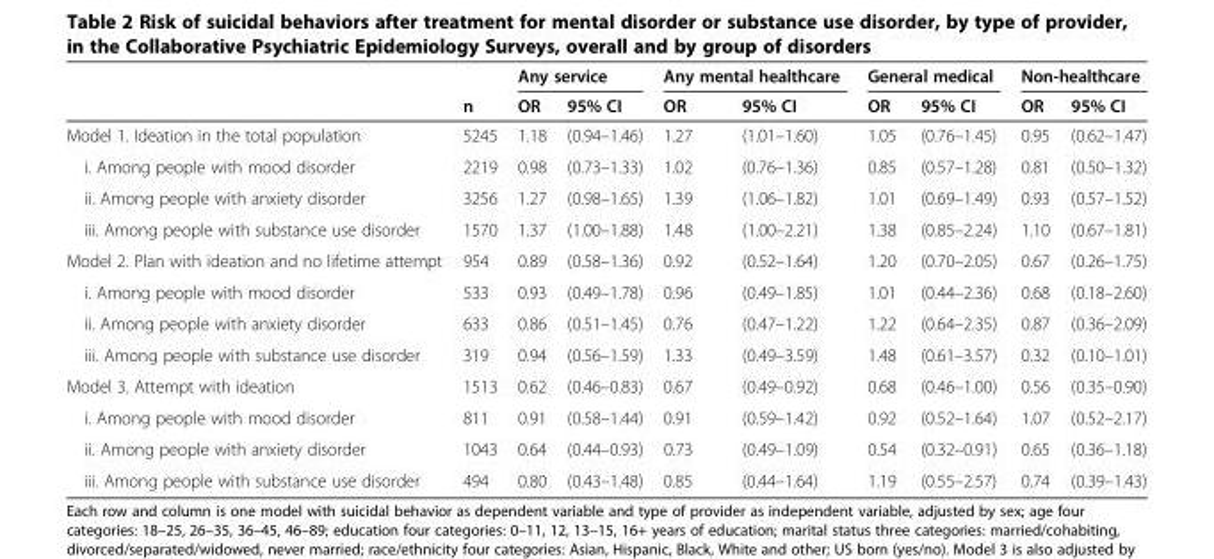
<table><thead><tr><td rowspan="2"></td><td rowspan="2">n</td><td colspan="2">Any service</td><td colspan="2">Any mental healthcare</td><td colspan="2">General medical</td><td colspan="2">Non-healthcare</td></tr><tr><td>OR</td><td>95% CI</td><td>OR</td><td>95% CI</td><td>OR</td><td>95% CI</td><td>OR</td><td>95% CI</td></tr></thead><tbody><tr><td>Model 1. Ideation in the total population</td><td>5245</td><td>1.18</td><td>(0.94–1.46)</td><td>1.27</td><td>(1.01–1.60)</td><td>1.05</td><td>(0.76–1.45)</td><td>0.95</td><td>(0.62–1.47)</td></tr><tr><td>i. Among people with mood disorder</td><td>2219</td><td>0.98</td><td>(0.73–1.33)</td><td>1.02</td><td>(0.76–1.36)</td><td>0.85</td><td>(0.57–1.28)</td><td>0.81</td><td>(0.50–1.32)</td></tr><tr><td>ii. Among people with anxiety disorder</td><td>3256</td><td>1.27</td><td>(0.98–1.65)</td><td>1.39</td><td>(1.06–1.82)</td><td>1.01</td><td>(0.69–1.49)</td><td>0.93</td><td>(0.57–1.52)</td></tr><tr><td>iii. Among people with substance use disorder</td><td>1570</td><td>1.37</td><td>(1.00–1.88)</td><td>1.48</td><td>(1.00–2.21)</td><td>1.38</td><td>(0.85–2.24)</td><td>1.10</td><td>(0.67–1.81)</td></tr><tr><td>Model 2. Plan with ideation and no lifetime attempt</td><td>954</td><td>0.89</td><td>(0.58–1.36)</td><td>0.92</td><td>(0.52–1.64)</td><td>1.20</td><td>(0.70–2.05)</td><td>0.67</td><td>(0.26–1.75)</td></tr><tr><td>i. Among people with mood disorder</td><td>533</td><td>0.93</td><td>(0.49–1.78)</td><td>0.96</td><td>(0.49–1.85)</td><td>1.01</td><td>(0.44–2.36)</td><td>0.68</td><td>(0.18–2.60)</td></tr><tr><td>ii. Among people with anxiety disorder</td><td>633</td><td>0.86</td><td>(0.51–1.45)</td><td>0.76</td><td>(0.47–1.22)</td><td>1.22</td><td>(0.64–2.35)</td><td>0.87</td><td>(0.36–2.09)</td></tr><tr><td>iii. Among people with substance use disorder</td><td>319</td><td>0.94</td><td>(0.56–1.59)</td><td>1.33</td><td>(0.49–3.59)</td><td>1.48</td><td>(0.61–3.57)</td><td>0.32</td><td>(0.10–1.01)</td></tr><tr><td>Model 3. Attempt with ideation</td><td>1513</td><td>0.62</td><td>(0.46–0.83)</td><td>0.67</td><td>(0.49–0.92)</td><td>0.68</td><td>(0.46–1.00)</td><td>0.56</td><td>(0.35–0.90)</td></tr><tr><td>i. Among people with mood disorder</td><td>811</td><td>0.91</td><td>(0.58–1.44)</td><td>0.91</td><td>(0.59–1.42)</td><td>0.92</td><td>(0.52–1.64)</td><td>1.07</td><td>(0.52–2.17)</td></tr><tr><td>ii. Among people with anxiety disorder</td><td>1043</td><td>0.64</td><td>(0.44–0.93)</td><td>0.73</td><td>(0.49–1.09)</td><td>0.54</td><td>(0.32–0.91)</td><td>0.65</td><td>(0.36–1.18)</td></tr><tr><td>iii. Among people with substance use disorder</td><td>494</td><td>0.80</td><td>(0.43–1.48)</td><td>0.85</td><td>(0.44–1.64)</td><td>1.19</td><td>(0.55–2.57)</td><td>0.74</td><td>(0.39–1.43)</td></tr></tbody></table>